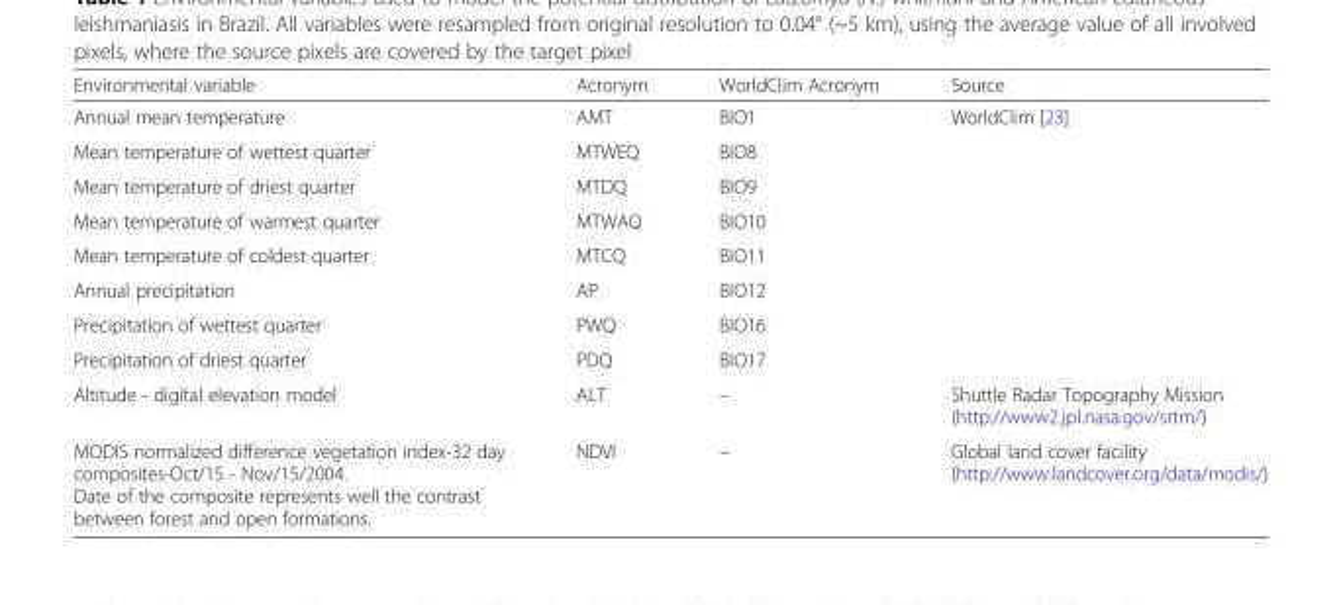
<table><thead><tr><td>Environmental variable</td><td>Acronym</td><td>WorldClim Acronym</td><td>Source</td></tr></thead><tbody><tr><td>Annual mean temperature</td><td>AMT</td><td>BIO1</td><td rowspan="8">WorldClim [23]</td></tr><tr><td>Mean temperature of wettest quarter</td><td>MTWEQ</td><td>BIO8</td></tr><tr><td>Mean temperature of driest quarter</td><td>MTDQ</td><td>BIO9</td></tr><tr><td>Mean temperature of warmest quarter</td><td>MTWAQ</td><td>BIO10</td></tr><tr><td>Mean temperature of coldest quarter</td><td>MTCQ</td><td>BIO11</td></tr><tr><td>Annual precipitation</td><td>AP</td><td>BIO12</td></tr><tr><td>Precipitation of wettest quarter</td><td>PWQ</td><td>BIO16</td></tr><tr><td>Precipitation of driest quarter</td><td>PDQ</td><td>BIO17</td></tr><tr><td>Altitude - digital elevation model</td><td>ALT</td><td>–</td><td>Shuttle Radar Topography Mission (http://www2.jpl.nasa.gov/srtm/)</td></tr><tr><td>MODIS normalized difference vegetation index-32 day composites-Oct/15 - Nov/15/2004. Date of the composite represents well the contrast between forest and open formations.</td><td>NDVI</td><td>–</td><td>Global land cover facility (http://www.landcover.org/data/modis/)</td></tr></tbody></table>